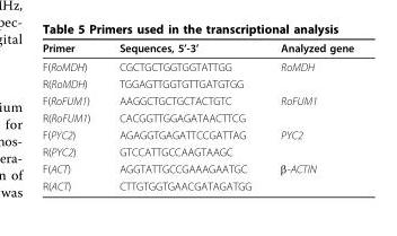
<table><thead><tr><td>Primer</td><td>Sequences, 5’-3’</td><td>Analyzed gene</td></tr></thead><tbody><tr><td>F(RoMDH)</td><td>CGCTGCTGGTGGTATTGG</td><td>RoMDH</td></tr><tr><td>R(RoMDH)</td><td>TGGAGTTGGTGTTGATGTGG</td><td></td></tr><tr><td>F(RoFUM1)</td><td>AAGGCTGCTGCTACTGTC</td><td>RoFUM1</td></tr><tr><td>R(RoFUM1)</td><td>CACGGTTGGAGATAACTTCG</td><td></td></tr><tr><td>F(PYC2)</td><td>AGAGGTGAGATTCCGATTAG</td><td>PYC2</td></tr><tr><td>R(PYC2)</td><td>GTCCATTGCCAAGTAAGC</td><td></td></tr><tr><td>F(ACT)</td><td>AGGTATTGCCGAAAGAATGC</td><td>β-ACTIN</td></tr><tr><td>R(ACT)</td><td>CTTGTGGTGAACGATAGATGG</td><td></td></tr></tbody></table>